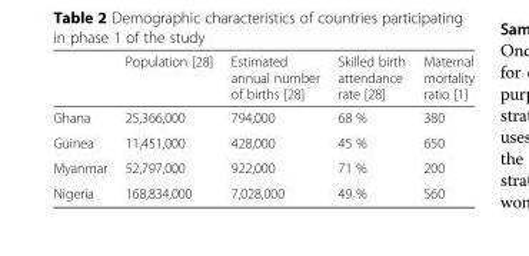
<table><thead><tr><td></td><td>Population [28]</td><td>Estimated annual number of births [28]</td><td>Skilled birth attendance rate [28]</td><td>Maternal mortality ratio [1]</td></tr></thead><tbody><tr><td>Ghana</td><td>25,366,000</td><td>794,000</td><td>68 %</td><td>380</td></tr><tr><td>Guinea</td><td>11,451,000</td><td>428,000</td><td>45 %</td><td>650</td></tr><tr><td>Myanmar</td><td>52,797,000</td><td>922,000</td><td>71 %</td><td>200</td></tr><tr><td>Nigeria</td><td>168,834,000</td><td>7,028,000</td><td>49 %</td><td>560</td></tr></tbody></table>